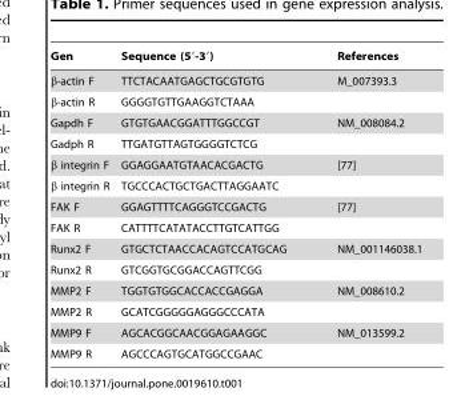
<table><thead><tr><td>Gen</td><td>Sequence (5′-3′)</td><td>References</td></tr></thead><tbody><tr><td>β-actin F</td><td>TTCTACAATGAGCTGCGTGTG</td><td>M_007393.3</td></tr><tr><td>β-actin R</td><td>GGGGTGTTGAAGGTCTAAA</td><td></td></tr><tr><td>Gapdh F</td><td>GTGTGAACGGATTTGGCCGT</td><td>NM_008084.2</td></tr><tr><td>Gadph R</td><td>TTGATGTTAGTGGGGTCTCG</td><td></td></tr><tr><td>β integrin F</td><td>GGAGGAATGTAACACGACTG</td><td>[77]</td></tr><tr><td>β integrin R</td><td>TGCCCACTGCTGACTTAGGAATC</td><td></td></tr><tr><td>FAK F</td><td>GGAGTTTTCAGGGTCCGACTG</td><td>[77]</td></tr><tr><td>FAK R</td><td>CATTTTCATATACCTTGTCATTGG</td><td></td></tr><tr><td>Runx2 F</td><td>GTGCTCTAACCACAGTCCATGCAG</td><td>NM_001146038.1</td></tr><tr><td>Runx2 R</td><td>GTCGGTGCGGACCAGTTCGG</td><td></td></tr><tr><td>MMP2 F</td><td>TGGTGTGGCACCACCGAGGA</td><td>NM_008610.2</td></tr><tr><td>MMP2 R</td><td>GCATCGGGGGAGGGCCCATA</td><td></td></tr><tr><td>MMP9 F</td><td>AGCACGGCAACGGAGAAGGC</td><td>NM_013599.2</td></tr><tr><td>MMP9 R</td><td>AGCCCAGTGCATGGCCGAAC</td><td></td></tr></tbody></table>